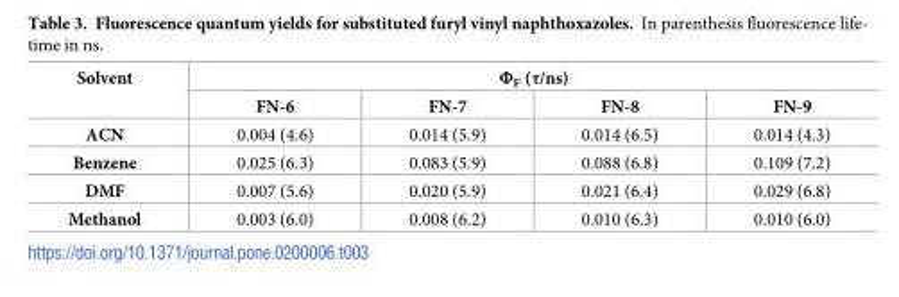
<table><thead><tr><td rowspan="2">Solvent</td><td colspan="4">Ф<sub>F</sub> (τ/ns)</td></tr><tr><td>FN-6</td><td>FN-7</td><td>FN-8</td><td>FN-9</td></tr></thead><tbody><tr><td>ACN</td><td>0.004 (4.6)</td><td>0.014 (5.9)</td><td>0.014 (6.5)</td><td>0.014 (4.3)</td></tr><tr><td>Benzene</td><td>0.025 (6.3)</td><td>0.083 (5.9)</td><td>0.088 (6.8)</td><td>0.109 (7.2)</td></tr><tr><td>DMF</td><td>0.007 (5.6)</td><td>0.020 (5.9)</td><td>0.021 (6.4)</td><td>0.029 (6.8)</td></tr><tr><td>Methanol</td><td>0.003 (6.0)</td><td>0.008 (6.2)</td><td>0.010 (6.3)</td><td>0.010 (6.0)</td></tr></tbody></table>